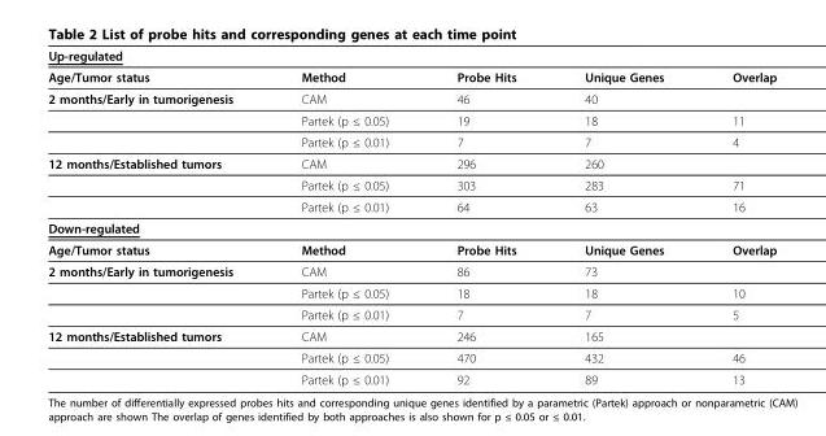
<table><thead><tr><td colspan="5">Up-regulated</td></tr><tr><td>Age/Tumor status</td><td>Method</td><td>Probe Hits</td><td>Unique Genes</td><td>Overlap</td></tr></thead><tbody><tr><td rowspan="3">2 months/Early in tumorigenesis</td><td>CAM</td><td>46</td><td>40</td><td></td></tr><tr><td>Partek (p ≤ 0.05)</td><td>19</td><td>18</td><td>11</td></tr><tr><td>Partek (p ≤ 0.01)</td><td>7</td><td>7</td><td>4</td></tr><tr><td rowspan="3">12 months/Established tumors</td><td>CAM</td><td>296</td><td>260</td><td></td></tr><tr><td>Partek (p ≤ 0.05)</td><td>303</td><td>283</td><td>71</td></tr><tr><td>Partek (p ≤ 0.01)</td><td>64</td><td>63</td><td>16</td></tr><tr><td colspan="5">Down-regulated</td></tr><tr><td>Age/Tumor status</td><td>Method</td><td>Probe Hits</td><td>Unique Genes</td><td>Overlap</td></tr><tr><td rowspan="3">2 months/Early in tumorigenesis</td><td>CAM</td><td>86</td><td>73</td><td></td></tr><tr><td>Partek (p ≤ 0.05)</td><td>18</td><td>18</td><td>10</td></tr><tr><td>Partek (p ≤ 0.01)</td><td>7</td><td>7</td><td>5</td></tr><tr><td rowspan="3">12 months/Established tumors</td><td>CAM</td><td>246</td><td>165</td><td></td></tr><tr><td>Partek (p ≤ 0.05)</td><td>470</td><td>432</td><td>46</td></tr><tr><td>Partek (p ≤ 0.01)</td><td>92</td><td>89</td><td>13</td></tr></tbody></table>